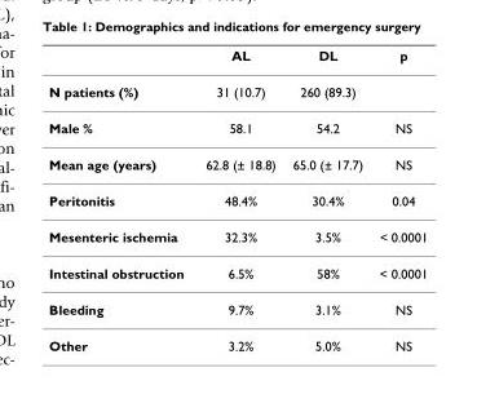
<table><thead><tr><td></td><td>AL</td><td>DL</td><td>p</td></tr></thead><tbody><tr><td>N patients (%)</td><td>31 (10.7)</td><td>260 (89.3)</td><td></td></tr><tr><td>Male %</td><td>58.1</td><td>54.2</td><td>NS</td></tr><tr><td>Mean age (years)</td><td>62.8 (± 18.8)</td><td>65.0 (± 17.7)</td><td>NS</td></tr><tr><td>Peritonitis</td><td>48.4%</td><td>30.4%</td><td>0.04</td></tr><tr><td>Mesenteric ischemia</td><td>32.3%</td><td>3.5%</td><td>&lt; 0.0001</td></tr><tr><td>Intestinal obstruction</td><td>6.5%</td><td>58%</td><td>&lt; 0.0001</td></tr><tr><td>Bleeding</td><td>9.7%</td><td>3.1%</td><td>NS</td></tr><tr><td>Other</td><td>3.2%</td><td>5.0%</td><td>NS</td></tr></tbody></table>